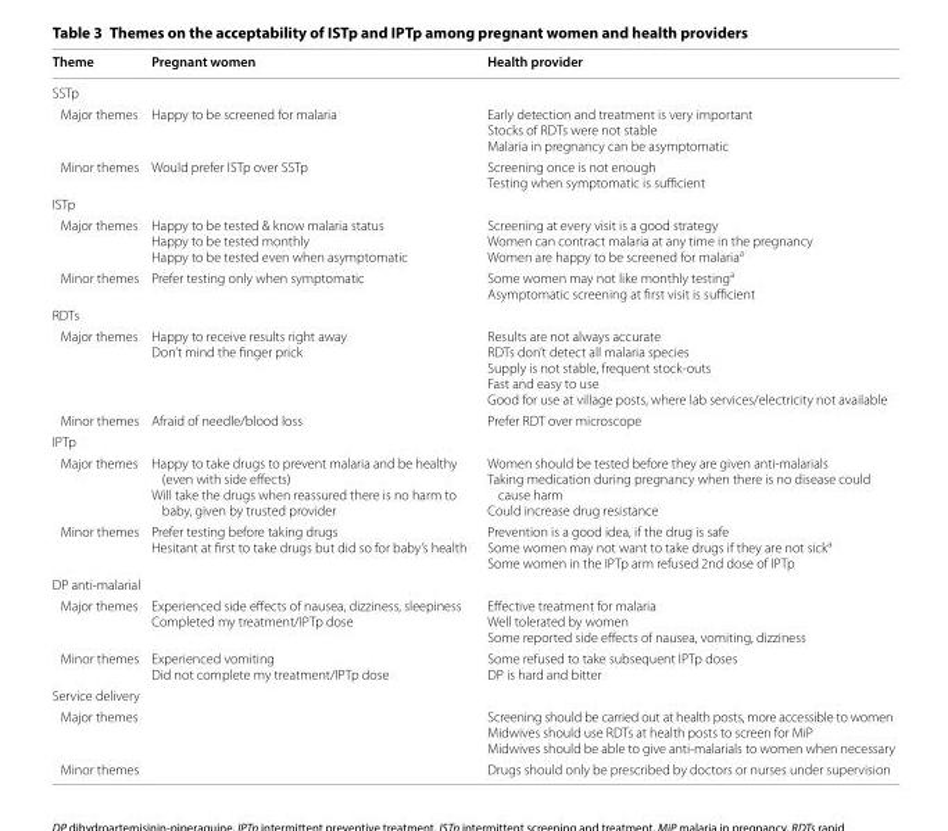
<table><thead><tr><td>Theme</td><td>Pregnant women</td><td>Health provider</td></tr></thead><tbody><tr><td colspan="3">SSTp</td></tr><tr><td>Major themes</td><td>Happy to be screened for malaria</td><td>Early detection and treatment is very important Stocks of RDTs were not stable Malaria in pregnancy can be asymptomatic</td></tr><tr><td>Minor themes</td><td>Would prefer ISTp over SSTp</td><td>Screening once is not enough Testing when symptomatic is sufficient</td></tr><tr><td colspan="3">ISTp</td></tr><tr><td>Major themes</td><td>Happy to be tested &amp; know malaria status Happy to be tested monthly Happy to be tested even when asymptomatic</td><td>Screening at every visit is a good strategy Women can contract malaria at any time in the pregnancy Women are happy to be screened for malaria<sup>a</sup></td></tr><tr><td>Minor themes</td><td>Prefer testing only when symptomatic</td><td>Some women may not like monthly testing<sup>a</sup> Asymptomatic screening at first visit is sufficient</td></tr><tr><td colspan="3">RDTs</td></tr><tr><td>Major themes</td><td>Happy to receive results right away Don’t mind the finger prick</td><td>Results are not always accurate RDTs don’t detect all malaria species Supply is not stable, frequent stock-outs Fast and easy to use Good for use at village posts, where lab services/electricity not available</td></tr><tr><td>Minor themes</td><td>Afraid of needle/blood loss</td><td>Prefer RDT over microscope</td></tr><tr><td colspan="3">IPTp</td></tr><tr><td>Major themes</td><td>Happy to take drugs to prevent malaria and be healthy (even with side effects) Will take the drugs when reassured there is no harm to baby, given by trusted provider</td><td>Women should be tested before they are given anti-malarials Taking medication during pregnancy when there is no disease could cause harm Could increase drug resistance</td></tr><tr><td>Minor themes</td><td>Prefer testing before taking drugs Hesitant at first to take drugs but did so for baby’s health</td><td>Prevention is a good idea, if the drug is safe Some women may not want to take drugs if they are not sick<sup>a</sup> Some women in the IPTp arm refused 2nd dose of IPTp</td></tr><tr><td colspan="3">DP anti-malarial</td></tr><tr><td>Major themes</td><td>Experienced side effects of nausea, dizziness, sleepiness Completed my treatment/IPTp dose</td><td>Effective treatment for malaria Well tolerated by women Some reported side effects of nausea, vomiting, dizziness</td></tr><tr><td>Minor themes</td><td>Experienced vomiting Did not complete my treatment/IPTp dose</td><td>Some refused to take subsequent IPTp doses DP is hard and bitter</td></tr><tr><td colspan="3">Service delivery</td></tr><tr><td>Major themes</td><td></td><td>Screening should be carried out at health posts, more accessible to women Midwives should use RDTs at health posts to screen for MiP Midwives should be able to give anti-malarials to women when necessary</td></tr><tr><td>Minor themes</td><td></td><td>Drugs should only be prescribed by doctors or nurses under supervision</td></tr></tbody></table>